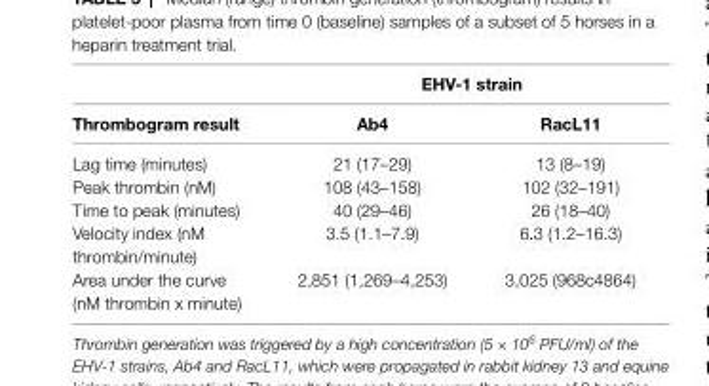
<table><thead><tr><td rowspan="2">Thrombogram result</td><td colspan="2">ehV-1 strain</td></tr><tr><td>ab4</td><td>racl11</td></tr></thead><tbody><tr><td>Lag time (minutes)</td><td>21 (17–29)</td><td>13 (8–19)</td></tr><tr><td>Peak thrombin (nM)</td><td>108 (43–158)</td><td>102 (32–191)</td></tr><tr><td>Time to peak (minutes)</td><td>40 (29–46)</td><td>26 (18–40)</td></tr><tr><td>Velocity index (nM thrombin/minute)</td><td>3.5 (1.1–7.9)</td><td>6.3 (1.2–16.3)</td></tr><tr><td>Area under the curve (nM thrombin x minute)</td><td>2,851 (1,269–4,253)</td><td>3,025 (968c4864)</td></tr></tbody></table>